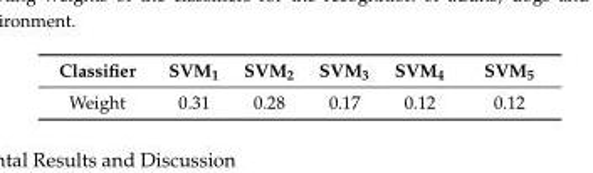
<table><thead><tr><td>Classifier</td><td>SVM<sub>1</sub></td><td>SVM<sub>2</sub></td><td>SVM<sub>3</sub></td><td>SVM<sub>4</sub></td><td>SVM<sub>5</sub></td></tr></thead><tbody><tr><td>Weight</td><td>0.31</td><td>0.28</td><td>0.17</td><td>0.12</td><td>0.12</td></tr></tbody></table>